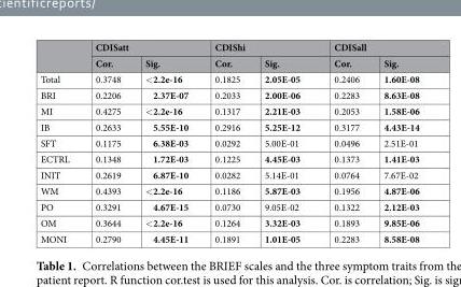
<table><thead><tr><td rowspan="2"></td><td colspan="2">CDISatt</td><td colspan="2">CDIShi</td><td colspan="2">CDISall</td></tr><tr><td>Cor.</td><td>Sig.</td><td>Cor.</td><td>Sig.</td><td>Cor.</td><td>Sig.</td></tr></thead><tbody><tr><td>Total</td><td>0.3748</td><td>&lt;2.2e-16</td><td>0.1825</td><td>2.05E-05</td><td>0.2406</td><td>1.60E-08</td></tr><tr><td>BRI</td><td>0.2206</td><td>2.37E-07</td><td>0.2033</td><td>2.00E-06</td><td>0.2283</td><td>8.63E-08</td></tr><tr><td>MI</td><td>0.4275</td><td>&lt;2.2e-16</td><td>0.1317</td><td>2.21E-03</td><td>0.2053</td><td>1.58E-06</td></tr><tr><td>IB</td><td>0.2633</td><td>5.55E-10</td><td>0.2916</td><td>5.25E-12</td><td>0.3177</td><td>4.43E-14</td></tr><tr><td>SFT</td><td>0.1175</td><td>6.38E-03</td><td>0.0292</td><td>5.00E-01</td><td>0.0496</td><td>2.51E-01</td></tr><tr><td>ECTRL</td><td>0.1348</td><td>1.72E-03</td><td>0.1225</td><td>4.45E-03</td><td>0.1373</td><td>1.41E-03</td></tr><tr><td>INIT</td><td>0.2619</td><td>6.87E-10</td><td>0.0282</td><td>5.14E-01</td><td>0.0764</td><td>7.67E-02</td></tr><tr><td>WM</td><td>0.4393</td><td>&lt;2.2e-16</td><td>0.1186</td><td>5.87E-03</td><td>0.1956</td><td>4.87E-06</td></tr><tr><td>PO</td><td>0.3291</td><td>4.67E-15</td><td>0.0730</td><td>9.05E-02</td><td>0.1322</td><td>2.12E-03</td></tr><tr><td>OM</td><td>0.3644</td><td>&lt;2.2e-16</td><td>0.1264</td><td>3.32E-03</td><td>0.1893</td><td>9.85E-06</td></tr><tr><td>MONI</td><td>0.2790</td><td>4.45E-11</td><td>0.1891</td><td>1.01E-05</td><td>0.2283</td><td>8.58E-08</td></tr></tbody></table>